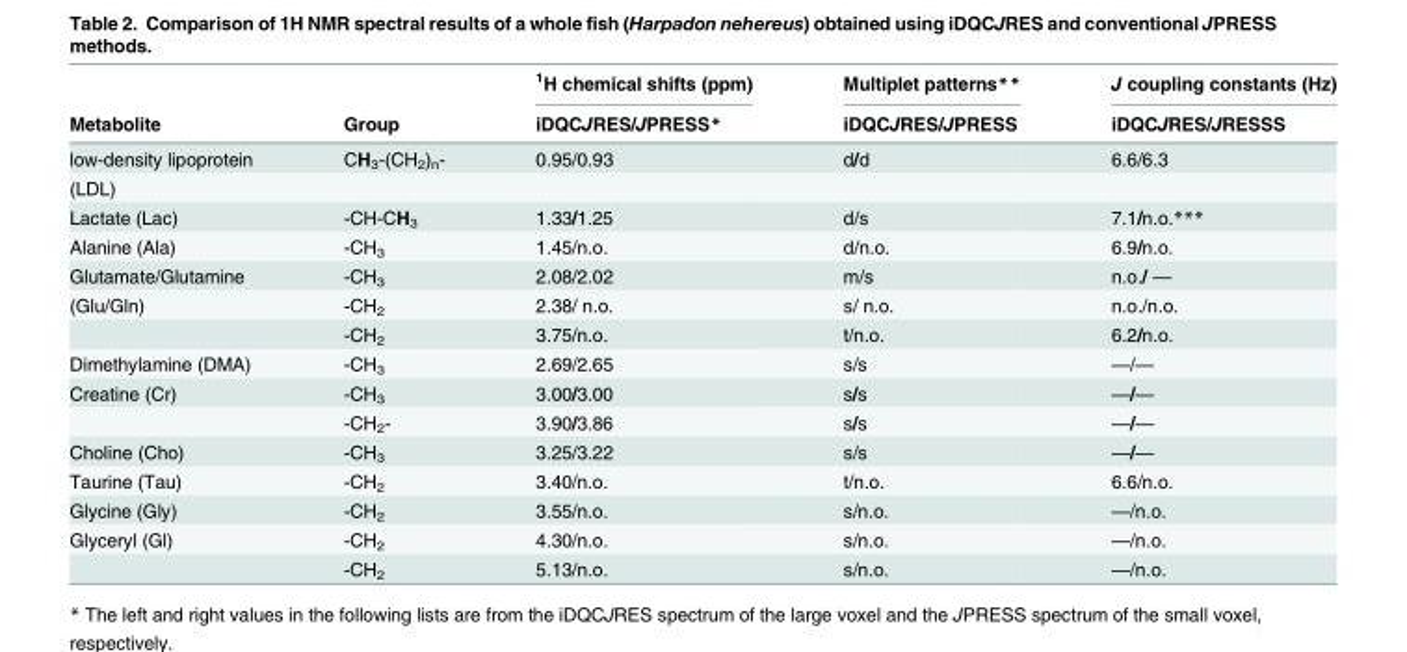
<table><thead><tr><td rowspan="2">Metabolite</td><td rowspan="2">Group</td><td rowspan="2">1H chemical shifts (ppm) iDQCJRES/JPRESS*</td><td rowspan="2">Multiplet patterns** iDQCJRES/JPRESS</td><td rowspan="2">J coupling constants (Hz) iDQCJRES/JRESSS</td></tr><tr></tr></thead><tbody><tr><td>low-density lipoprotein</td><td>CH<sub>3</sub>-(CH<sub>2</sub>)<sub>n</sub>-</td><td>0.95/0.93</td><td>d/d</td><td>6.6/6.3</td></tr><tr><td colspan="5">(LDL)</td></tr><tr><td>Lactate (Lac)</td><td>-CH-CH<sub>3</sub></td><td>1.33/1.25</td><td>d/s</td><td>7.1/n.o.***</td></tr><tr><td>Alanine (Ala)</td><td>-CH<sub>3</sub></td><td>1.45/n.o.</td><td>d/n.o.</td><td>6.9/n.o.</td></tr><tr><td>Glutamate/Glutamine</td><td>-CH<sub>3</sub></td><td>2.08/2.02</td><td>m/s</td><td>n.o./ —</td></tr><tr><td rowspan="2">(Glu/Gln)</td><td>-CH<sub>2</sub></td><td>2.38/ n.o.</td><td>s/ n.o.</td><td>n.o./n.o.</td></tr><tr><td>-CH<sub>2</sub></td><td>3.75/n.o.</td><td>t/n.o.</td><td>6.2/n.o.</td></tr><tr><td>Dimethylamine (DMA)</td><td>-CH<sub>3</sub></td><td>2.69/2.65</td><td>s/s</td><td>—/—</td></tr><tr><td rowspan="2">Creatine (Cr)</td><td>-CH<sub>3</sub></td><td>3.00/3.00</td><td>s/s</td><td>—/—</td></tr><tr><td>-CH<sub>2</sub>-</td><td>3.90/3.86</td><td>s/s</td><td>—/—</td></tr><tr><td>Choline (Cho)</td><td>-CH<sub>3</sub></td><td>3.25/3.22</td><td>s/s</td><td>—/—</td></tr><tr><td>Taurine (Tau)</td><td>-CH<sub>2</sub></td><td>3.40/n.o.</td><td>t/n.o.</td><td>6.6/n.o.</td></tr><tr><td>Glycine (Gly)</td><td>-CH<sub>2</sub></td><td>3.55/n.o.</td><td>s/n.o.</td><td>—/n.o.</td></tr><tr><td rowspan="2">Glyceryl (Gl)</td><td>-CH<sub>2</sub></td><td>4.30/n.o.</td><td>s/n.o.</td><td>—/n.o.</td></tr><tr><td>-CH<sub>2</sub></td><td>5.13/n.o.</td><td>s/n.o.</td><td>—/n.o.</td></tr></tbody></table>